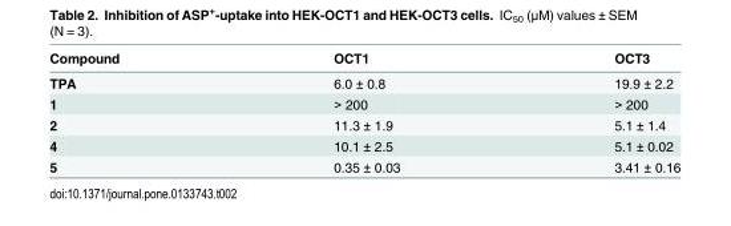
<table><thead><tr><td>Compound</td><td>OCT1</td><td>OCT3</td></tr></thead><tbody><tr><td>TPA</td><td>6.0 ± 0.8</td><td>19.9 ± 2.2</td></tr><tr><td>1</td><td>&gt; 200</td><td>&gt; 200</td></tr><tr><td>2</td><td>11.3 ± 1.9</td><td>5.1 ± 1.4</td></tr><tr><td>4</td><td>10.1 ± 2.5</td><td>5.1 ± 0.02</td></tr><tr><td>5</td><td>0.35 ± 0.03</td><td>3.41 ± 0.16</td></tr></tbody></table>